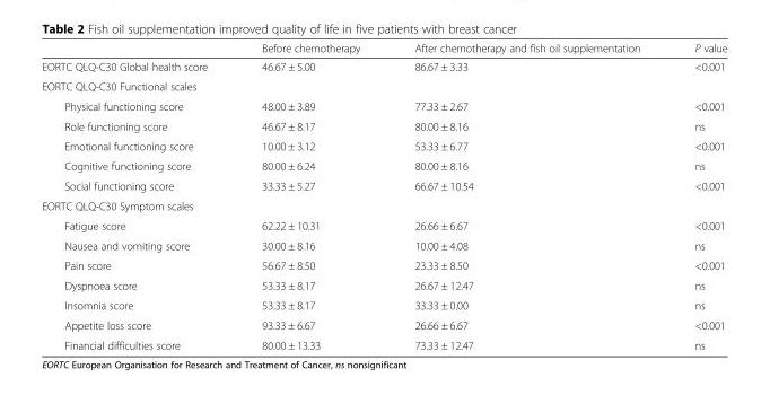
<table><thead><tr><td></td><td>Before chemotherapy</td><td>After chemotherapy and fish oil supplementation</td><td>P value</td></tr></thead><tbody><tr><td>EORTC QLQ-C30 Global health score</td><td>46.67 ± 5.00</td><td>86.67 ± 3.33</td><td>&lt;0.001</td></tr><tr><td colspan="4">EORTC QLQ-C30 Functional scales</td></tr><tr><td>Physical functioning score</td><td>48.00 ± 3.89</td><td>77.33 ± 2.67</td><td>&lt;0.001</td></tr><tr><td>Role functioning score</td><td>46.67 ± 8.17</td><td>80.00 ± 8.16</td><td>ns</td></tr><tr><td>Emotional functioning score</td><td>10.00 ± 3.12</td><td>53.33 ± 6.77</td><td>&lt;0.001</td></tr><tr><td>Cognitive functioning score</td><td>80.00 ± 6.24</td><td>80.00 ± 8.16</td><td>ns</td></tr><tr><td>Social functioning score</td><td>33.33 ± 5.27</td><td>66.67 ± 10.54</td><td>&lt;0.001</td></tr><tr><td colspan="4">EORTC QLQ-C30 Symptom scales</td></tr><tr><td>Fatigue score</td><td>62.22 ± 10.31</td><td>26.66 ± 6.67</td><td>&lt;0.001</td></tr><tr><td>Nausea and vomiting score</td><td>30.00 ± 8.16</td><td>10.00 ± 4.08</td><td>ns</td></tr><tr><td>Pain score</td><td>56.67 ± 8.50</td><td>23.33 ± 8.50</td><td>&lt;0.001</td></tr><tr><td>Dyspnoea score</td><td>53.33 ± 8.17</td><td>26.67 ± 12.47</td><td>ns</td></tr><tr><td>Insomnia score</td><td>53.33 ± 8.17</td><td>33.33 ± 0.00</td><td>ns</td></tr><tr><td>Appetite loss score</td><td>93.33 ± 6.67</td><td>26.66 ± 6.67</td><td>&lt;0.001</td></tr><tr><td>Financial difficulties score</td><td>80.00 ± 13.33</td><td>73.33 ± 12.47</td><td>ns</td></tr></tbody></table>